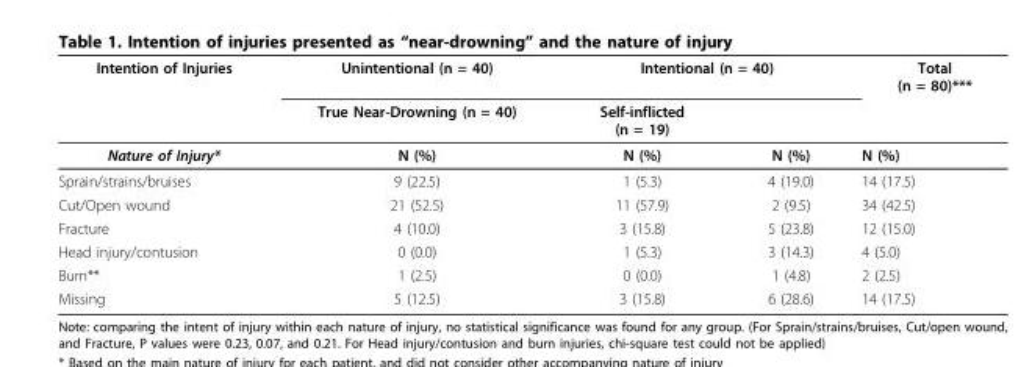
<table><thead><tr><td rowspan="2">Intention of Injuries</td><td rowspan="2">Unintentional (n = 40) True Near-Drowning (n = 40)</td><td colspan="2">Intentional (n = 40)</td><td rowspan="2">Total (n = 80)***</td></tr><tr><td>Self-inflicted (n = 19)</td><td></td></tr></thead><tbody><tr><td>Nature of Injury*</td><td>N (%)</td><td>N (%)</td><td>N (%)</td><td>N (%)</td></tr><tr><td>Sprain/strains/bruises</td><td>9 (22.5)</td><td>1 (5.3)</td><td>4 (19.0)</td><td>14 (17.5)</td></tr><tr><td>Cut/Open wound</td><td>21 (52.5)</td><td>11 (57.9)</td><td>2 (9.5)</td><td>34 (42.5)</td></tr><tr><td>Fracture</td><td>4 (10.0)</td><td>3 (15.8)</td><td>5 (23.8)</td><td>12 (15.0)</td></tr><tr><td>Head injury/contusion</td><td>0 (0.0)</td><td>1 (5.3)</td><td>3 (14.3)</td><td>4 (5.0)</td></tr><tr><td>Burn**</td><td>1 (2.5)</td><td>0 (0.0)</td><td>1 (4.8)</td><td>2 (2.5)</td></tr><tr><td>Missing</td><td>5 (12.5)</td><td>3 (15.8)</td><td>6 (28.6)</td><td>14 (17.5)</td></tr></tbody></table>